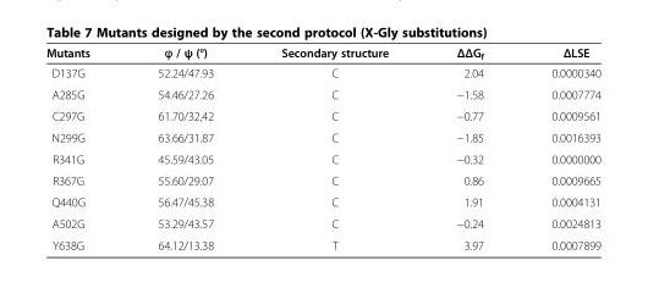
<table><thead><tr><td>Mutants</td><td>ϕ / ψ (°)</td><td>Secondary structure</td><td>ΔΔG<sub>f</sub></td><td>ΔLSE</td></tr></thead><tbody><tr><td>D137G</td><td>52.24/47.93</td><td>C</td><td>2.04</td><td>0.0000340</td></tr><tr><td>A285G</td><td>54.46/27.26</td><td>C</td><td>−1.58</td><td>0.0007774</td></tr><tr><td>C297G</td><td>61.70/32,42</td><td>C</td><td>−0.77</td><td>0.0009561</td></tr><tr><td>N299G</td><td>63.66/31.87</td><td>C</td><td>−1.85</td><td>0.0016393</td></tr><tr><td>R341G</td><td>45.59/43.05</td><td>C</td><td>−0.32</td><td>0.0000000</td></tr><tr><td>R367G</td><td>55.60/29.07</td><td>C</td><td>0.86</td><td>0.0009665</td></tr><tr><td>Q440G</td><td>56.47/45.38</td><td>C</td><td>1.91</td><td>0.0004131</td></tr><tr><td>A502G</td><td>53.29/43.57</td><td>C</td><td>−0.24</td><td>0.0024813</td></tr><tr><td>Y638G</td><td>64.12/13.38</td><td>T</td><td>3.97</td><td>0.0007899</td></tr></tbody></table>